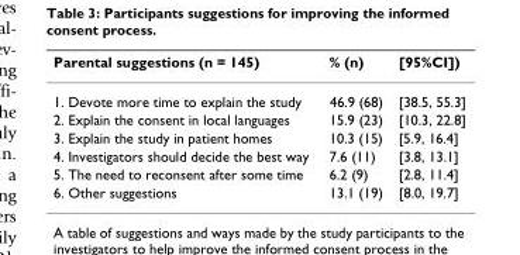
<table><thead><tr><td>Parental suggestions (n = 145)</td><td>% (n)</td><td>[95%CI])</td></tr></thead><tbody><tr><td>1. Devote more time to explain the study</td><td>46.9 (68)</td><td>[38.5, 55.3]</td></tr><tr><td>2. Explain the consent in local languages</td><td>15.9 (23)</td><td>[10.3, 22.8]</td></tr><tr><td>3. Explain the study in patient homes</td><td>10.3 (15)</td><td>[5.9, 16.4]</td></tr><tr><td>4. Investigators should decide the best way</td><td>7.6 (11)</td><td>[3.8, 13.1]</td></tr><tr><td>5. The need to reconsent after some time</td><td>6.2 (9)</td><td>[2.8, 11.4]</td></tr><tr><td>6. Other suggestions</td><td>13.1 (19)</td><td>[8.0, 19.7]</td></tr></tbody></table>